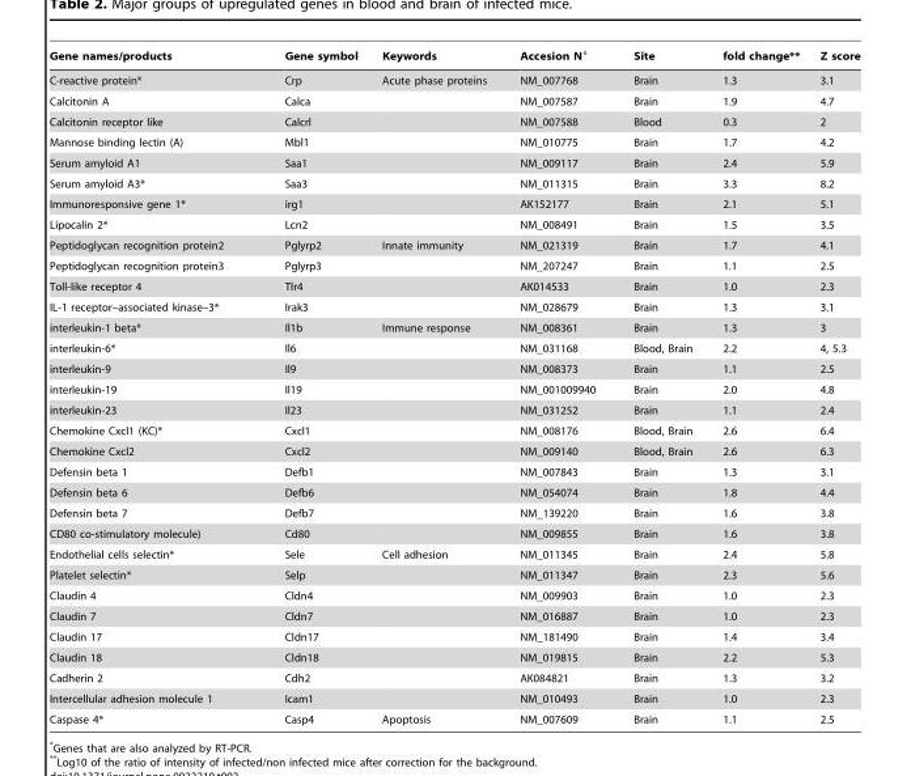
<table><thead><tr><td>Gene names/products</td><td>Gene symbol</td><td>Keywords</td><td>Accesion N°</td><td>Site</td><td>fold change**</td><td>Z score</td></tr></thead><tbody><tr><td>C-reactive protein*</td><td>Crp</td><td>Acute phase proteins</td><td>NM_007768</td><td>Brain</td><td>1.3</td><td>3.1</td></tr><tr><td>Calcitonin A</td><td>Calca</td><td></td><td>NM_007587</td><td>Brain</td><td>1.9</td><td>4.7</td></tr><tr><td>Calcitonin receptor like</td><td>Calcrl</td><td></td><td>NM_007588</td><td>Blood</td><td>0.3</td><td>2</td></tr><tr><td>Mannose binding lectin (A)</td><td>Mbl1</td><td></td><td>NM_010775</td><td>Brain</td><td>1.7</td><td>4.2</td></tr><tr><td>Serum amyloid A1</td><td>Saa1</td><td></td><td>NM_009117</td><td>Brain</td><td>2.4</td><td>5.9</td></tr><tr><td>Serum amyloid A3*</td><td>Saa3</td><td></td><td>NM_011315</td><td>Brain</td><td>3.3</td><td>8.2</td></tr><tr><td>Immunoresponsive gene 1*</td><td>irg1</td><td></td><td>AK152177</td><td>Brain</td><td>2.1</td><td>5.1</td></tr><tr><td>Lipocalin 2*</td><td>Lcn2</td><td></td><td>NM_008491</td><td>Brain</td><td>1.5</td><td>3.5</td></tr><tr><td>Peptidoglycan recognition protein2</td><td>Pglyrp2</td><td>Innate immunity</td><td>NM_021319</td><td>Brain</td><td>1.7</td><td>4.1</td></tr><tr><td>Peptidoglycan recognition protein3</td><td>Pglyrp3</td><td></td><td>NM_207247</td><td>Brain</td><td>1.1</td><td>2.5</td></tr><tr><td>Toll-like receptor 4</td><td>Tlr4</td><td></td><td>AK014533</td><td>Brain</td><td>1.0</td><td>2.3</td></tr><tr><td>IL-1 receptor–associated kinase–3*</td><td>Irak3</td><td></td><td>NM_028679</td><td>Brain</td><td>1.3</td><td>3.1</td></tr><tr><td>interleukin-1 beta*</td><td>Il1b</td><td>Immune response</td><td>NM_008361</td><td>Brain</td><td>1.3</td><td>3</td></tr><tr><td>interleukin-6*</td><td>Il6</td><td></td><td>NM_031168</td><td>Blood, Brain</td><td>2.2</td><td>4, 5.3</td></tr><tr><td>interleukin-9</td><td>Il9</td><td></td><td>NM_008373</td><td>Brain</td><td>1.1</td><td>2.5</td></tr><tr><td>interleukin-19</td><td>Il19</td><td></td><td>NM_001009940</td><td>Brain</td><td>2.0</td><td>4.8</td></tr><tr><td>interleukin-23</td><td>Il23</td><td></td><td>NM_031252</td><td>Brain</td><td>1.1</td><td>2.4</td></tr><tr><td>Chemokine Cxcl1 (KC)*</td><td>Cxcl1</td><td></td><td>NM_008176</td><td>Blood, Brain</td><td>2.6</td><td>6.4</td></tr><tr><td>Chemokine Cxcl2</td><td>Cxcl2</td><td></td><td>NM_009140</td><td>Blood, Brain</td><td>2.6</td><td>6.3</td></tr><tr><td>Defensin beta 1</td><td>Defb1</td><td></td><td>NM_007843</td><td>Brain</td><td>1.3</td><td>3.1</td></tr><tr><td>Defensin beta 6</td><td>Defb6</td><td></td><td>NM_054074</td><td>Brain</td><td>1.8</td><td>4.4</td></tr><tr><td>Defensin beta 7</td><td>Defb7</td><td></td><td>NM_139220</td><td>Brain</td><td>1.6</td><td>3.8</td></tr><tr><td>CD80 co-stimulatory molecule)</td><td>Cd80</td><td></td><td>NM_009855</td><td>Brain</td><td>1.6</td><td>3.8</td></tr><tr><td>Endothelial cells selectin*</td><td>Sele</td><td>Cell adhesion</td><td>NM_011345</td><td>Brain</td><td>2.4</td><td>5.8</td></tr><tr><td>Platelet selectin*</td><td>Selp</td><td></td><td>NM_011347</td><td>Brain</td><td>2.3</td><td>5.6</td></tr><tr><td>Claudin 4</td><td>Cldn4</td><td></td><td>NM_009903</td><td>Brain</td><td>1.0</td><td>2.3</td></tr><tr><td>Claudin 7</td><td>Cldn7</td><td></td><td>NM_016887</td><td>Brain</td><td>1.0</td><td>2.3</td></tr><tr><td>Claudin 17</td><td>Cldn17</td><td></td><td>NM_181490</td><td>Brain</td><td>1.4</td><td>3.4</td></tr><tr><td>Claudin 18</td><td>Cldn18</td><td></td><td>NM_019815</td><td>Brain</td><td>2.2</td><td>5.3</td></tr><tr><td>Cadherin 2</td><td>Cdh2</td><td></td><td>AK084821</td><td>Brain</td><td>1.3</td><td>3.2</td></tr><tr><td>Intercellular adhesion molecule 1</td><td>Icam1</td><td></td><td>NM_010493</td><td>Brain</td><td>1.0</td><td>2.3</td></tr><tr><td>Caspase 4*</td><td>Casp4</td><td>Apoptosis</td><td>NM_007609</td><td>Brain</td><td>1.1</td><td>2.5</td></tr></tbody></table>